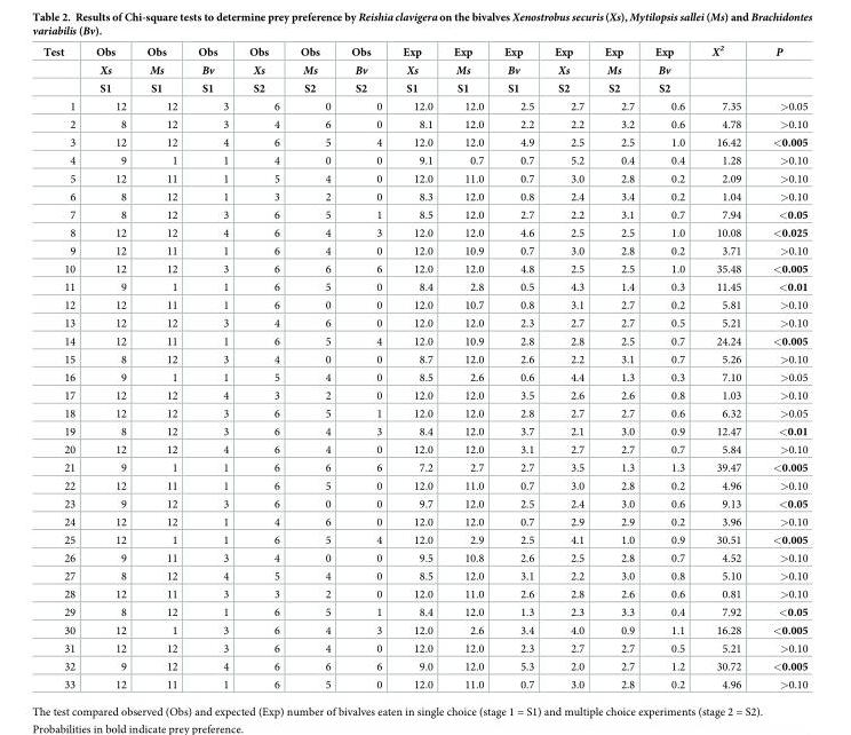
<table><thead><tr><td rowspan="3">Test</td><td rowspan="3">Obs Xs S1</td><td rowspan="3">Obs Ms S1</td><td rowspan="3">Obs Bv S1</td><td rowspan="3">Obs Xs S2</td><td rowspan="3">Obs Ms S2</td><td rowspan="3">Obs Bv S2</td><td rowspan="3">Exp Xs S1</td><td rowspan="3">Exp Ms S1</td><td rowspan="3">Exp Bv S1</td><td rowspan="3">Exp Xs S2</td><td rowspan="3">Exp Ms S2</td><td rowspan="3">Exp Bv S2</td><td rowspan="3">X<sup>2</sup></td><td rowspan="3">P</td></tr><tr></tr><tr></tr></thead><tbody><tr><td>1</td><td>12</td><td>12</td><td>3</td><td>6</td><td>0</td><td>0</td><td>12.0</td><td>12.0</td><td>2.5</td><td>2.7</td><td>2.7</td><td>0.6</td><td>7.35</td><td>&gt;0.05</td></tr><tr><td>2</td><td>8</td><td>12</td><td>3</td><td>4</td><td>6</td><td>0</td><td>8.1</td><td>12.0</td><td>2.2</td><td>2.2</td><td>3.2</td><td>0.6</td><td>4.78</td><td>&gt;0.10</td></tr><tr><td>3</td><td>12</td><td>12</td><td>4</td><td>6</td><td>5</td><td>4</td><td>12.0</td><td>12.0</td><td>4.9</td><td>2.5</td><td>2.5</td><td>1.0</td><td>16.42</td><td>&lt;0.005</td></tr><tr><td>4</td><td>9</td><td>1</td><td>1</td><td>4</td><td>0</td><td>0</td><td>9.1</td><td>0.7</td><td>0.7</td><td>5.2</td><td>0.4</td><td>0.4</td><td>1.28</td><td>&gt;0.10</td></tr><tr><td>5</td><td>12</td><td>11</td><td>1</td><td>5</td><td>4</td><td>0</td><td>12.0</td><td>11.0</td><td>0.7</td><td>3.0</td><td>2.8</td><td>0.2</td><td>2.09</td><td>&gt;0.10</td></tr><tr><td>6</td><td>8</td><td>12</td><td>1</td><td>3</td><td>2</td><td>0</td><td>8.3</td><td>12.0</td><td>0.8</td><td>2.4</td><td>3.4</td><td>0.2</td><td>1.04</td><td>&gt;0.10</td></tr><tr><td>7</td><td>8</td><td>12</td><td>3</td><td>6</td><td>5</td><td>1</td><td>8.5</td><td>12.0</td><td>2.7</td><td>2.2</td><td>3.1</td><td>0.7</td><td>7.94</td><td>&lt;0.05</td></tr><tr><td>8</td><td>12</td><td>12</td><td>4</td><td>6</td><td>4</td><td>3</td><td>12.0</td><td>12.0</td><td>4.6</td><td>2.5</td><td>2.5</td><td>1.0</td><td>10.08</td><td>&lt;0.025</td></tr><tr><td>9</td><td>12</td><td>11</td><td>1</td><td>6</td><td>4</td><td>0</td><td>12.0</td><td>10.9</td><td>0.7</td><td>3.0</td><td>2.8</td><td>0.2</td><td>3.71</td><td>&gt;0.10</td></tr><tr><td>10</td><td>12</td><td>12</td><td>3</td><td>6</td><td>6</td><td>6</td><td>12.0</td><td>12.0</td><td>4.8</td><td>2.5</td><td>2.5</td><td>1.0</td><td>35.48</td><td>&lt;0.005</td></tr><tr><td>11</td><td>9</td><td>1</td><td>1</td><td>6</td><td>5</td><td>0</td><td>8.4</td><td>2.8</td><td>0.5</td><td>4.3</td><td>1.4</td><td>0.3</td><td>11.45</td><td>&lt;0.01</td></tr><tr><td>12</td><td>12</td><td>11</td><td>1</td><td>6</td><td>0</td><td>0</td><td>12.0</td><td>10.7</td><td>0.8</td><td>3.1</td><td>2.7</td><td>0.2</td><td>5.81</td><td>&gt;0.10</td></tr><tr><td>13</td><td>12</td><td>12</td><td>3</td><td>4</td><td>6</td><td>0</td><td>12.0</td><td>12.0</td><td>2.3</td><td>2.7</td><td>2.7</td><td>0.5</td><td>5.21</td><td>&gt;0.10</td></tr><tr><td>14</td><td>12</td><td>11</td><td>1</td><td>6</td><td>5</td><td>4</td><td>12.0</td><td>10.9</td><td>2.8</td><td>2.8</td><td>2.5</td><td>0.7</td><td>24.24</td><td>&lt;0.005</td></tr><tr><td>15</td><td>8</td><td>12</td><td>3</td><td>4</td><td>0</td><td>0</td><td>8.7</td><td>12.0</td><td>2.6</td><td>2.2</td><td>3.1</td><td>0.7</td><td>5.26</td><td>&gt;0.10</td></tr><tr><td>16</td><td>9</td><td>1</td><td>1</td><td>5</td><td>4</td><td>0</td><td>8.5</td><td>2.6</td><td>0.6</td><td>4.4</td><td>1.3</td><td>0.3</td><td>7.10</td><td>&gt;0.05</td></tr><tr><td>17</td><td>12</td><td>12</td><td>4</td><td>3</td><td>2</td><td>0</td><td>12.0</td><td>12.0</td><td>3.5</td><td>2.6</td><td>2.6</td><td>0.8</td><td>1.03</td><td>&gt;0.10</td></tr><tr><td>18</td><td>12</td><td>12</td><td>3</td><td>6</td><td>5</td><td>1</td><td>12.0</td><td>12.0</td><td>2.8</td><td>2.7</td><td>2.7</td><td>0.6</td><td>6.32</td><td>&gt;0.05</td></tr><tr><td>19</td><td>8</td><td>12</td><td>3</td><td>6</td><td>4</td><td>3</td><td>8.4</td><td>12.0</td><td>3.7</td><td>2.1</td><td>3.0</td><td>0.9</td><td>12.47</td><td>&lt;0.01</td></tr><tr><td>20</td><td>12</td><td>12</td><td>4</td><td>6</td><td>4</td><td>0</td><td>12.0</td><td>12.0</td><td>3.1</td><td>2.7</td><td>2.7</td><td>0.7</td><td>5.84</td><td>&gt;0.10</td></tr><tr><td>21</td><td>9</td><td>1</td><td>1</td><td>6</td><td>6</td><td>6</td><td>7.2</td><td>2.7</td><td>2.7</td><td>3.5</td><td>1.3</td><td>1.3</td><td>39.47</td><td>&lt;0.005</td></tr><tr><td>22</td><td>12</td><td>11</td><td>1</td><td>6</td><td>5</td><td>0</td><td>12.0</td><td>11.0</td><td>0.7</td><td>3.0</td><td>2.8</td><td>0.2</td><td>4.96</td><td>&gt;0.10</td></tr><tr><td>23</td><td>9</td><td>12</td><td>3</td><td>6</td><td>0</td><td>0</td><td>9.7</td><td>12.0</td><td>2.5</td><td>2.4</td><td>3.0</td><td>0.6</td><td>9.13</td><td>&lt;0.05</td></tr><tr><td>24</td><td>12</td><td>12</td><td>1</td><td>4</td><td>6</td><td>0</td><td>12.0</td><td>12.0</td><td>0.7</td><td>2.9</td><td>2.9</td><td>0.2</td><td>3.96</td><td>&gt;0.10</td></tr><tr><td>25</td><td>12</td><td>1</td><td>1</td><td>6</td><td>5</td><td>4</td><td>12.0</td><td>2.9</td><td>2.5</td><td>4.1</td><td>1.0</td><td>0.9</td><td>30.51</td><td>&lt;0.005</td></tr><tr><td>26</td><td>9</td><td>11</td><td>3</td><td>4</td><td>0</td><td>0</td><td>9.5</td><td>10.8</td><td>2.6</td><td>2.5</td><td>2.8</td><td>0.7</td><td>4.52</td><td>&gt;0.10</td></tr><tr><td>27</td><td>8</td><td>12</td><td>4</td><td>5</td><td>4</td><td>0</td><td>8.5</td><td>12.0</td><td>3.1</td><td>2.2</td><td>3.0</td><td>0.8</td><td>5.10</td><td>&gt;0.10</td></tr><tr><td>28</td><td>12</td><td>11</td><td>3</td><td>3</td><td>2</td><td>0</td><td>12.0</td><td>11.0</td><td>2.6</td><td>2.8</td><td>2.6</td><td>0.6</td><td>0.81</td><td>&gt;0.10</td></tr><tr><td>29</td><td>8</td><td>12</td><td>1</td><td>6</td><td>5</td><td>1</td><td>8.4</td><td>12.0</td><td>1.3</td><td>2.3</td><td>3.3</td><td>0.4</td><td>7.92</td><td>&lt;0.05</td></tr><tr><td>30</td><td>12</td><td>1</td><td>3</td><td>6</td><td>4</td><td>3</td><td>12.0</td><td>2.6</td><td>3.4</td><td>4.0</td><td>0.9</td><td>1.1</td><td>16.28</td><td>&lt;0.005</td></tr><tr><td>31</td><td>12</td><td>12</td><td>3</td><td>6</td><td>4</td><td>0</td><td>12.0</td><td>12.0</td><td>2.3</td><td>2.7</td><td>2.7</td><td>0.5</td><td>5.21</td><td>&gt;0.10</td></tr><tr><td>32</td><td>9</td><td>12</td><td>4</td><td>6</td><td>6</td><td>6</td><td>9.0</td><td>12.0</td><td>5.3</td><td>2.0</td><td>2.7</td><td>1.2</td><td>30.72</td><td>&lt;0.005</td></tr><tr><td>33</td><td>12</td><td>11</td><td>1</td><td>6</td><td>5</td><td>0</td><td>12.0</td><td>11.0</td><td>0.7</td><td>3.0</td><td>2.8</td><td>0.2</td><td>4.96</td><td>&gt;0.10</td></tr></tbody></table>